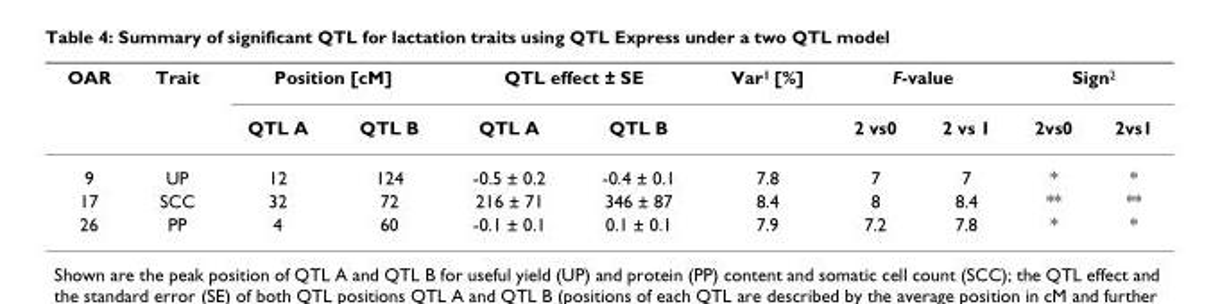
<table><thead><tr><td rowspan="2">OAR</td><td rowspan="2">Trait</td><td colspan="2">Position [cM]</td><td colspan="2">QTL effect ± SE</td><td rowspan="2">Var<sup>1</sup> [%]</td><td colspan="2">F-value</td><td colspan="2">Sign<sup>2</sup></td></tr><tr><td>QTL A</td><td>QTL B</td><td>QTL A</td><td>QTL B</td><td>2 vs0</td><td>2 vs 1</td><td>2vs0</td><td>2vs1</td></tr></thead><tbody><tr><td>9</td><td>UP</td><td>12</td><td>124</td><td>-0.5 ± 0.2</td><td>-0.4 ± 0.1</td><td>7.8</td><td>7</td><td>7</td><td>*</td><td>*</td></tr><tr><td>17</td><td>SCC</td><td>32</td><td>72</td><td>216 ± 71</td><td>346 ± 87</td><td>8.4</td><td>8</td><td>8.4</td><td>**</td><td>**</td></tr><tr><td>26</td><td>PP</td><td>4</td><td>60</td><td>-0.1 ± 0.1</td><td>0.1 ± 0.1</td><td>7.9</td><td>7.2</td><td>7.8</td><td>*</td><td>*</td></tr></tbody></table>